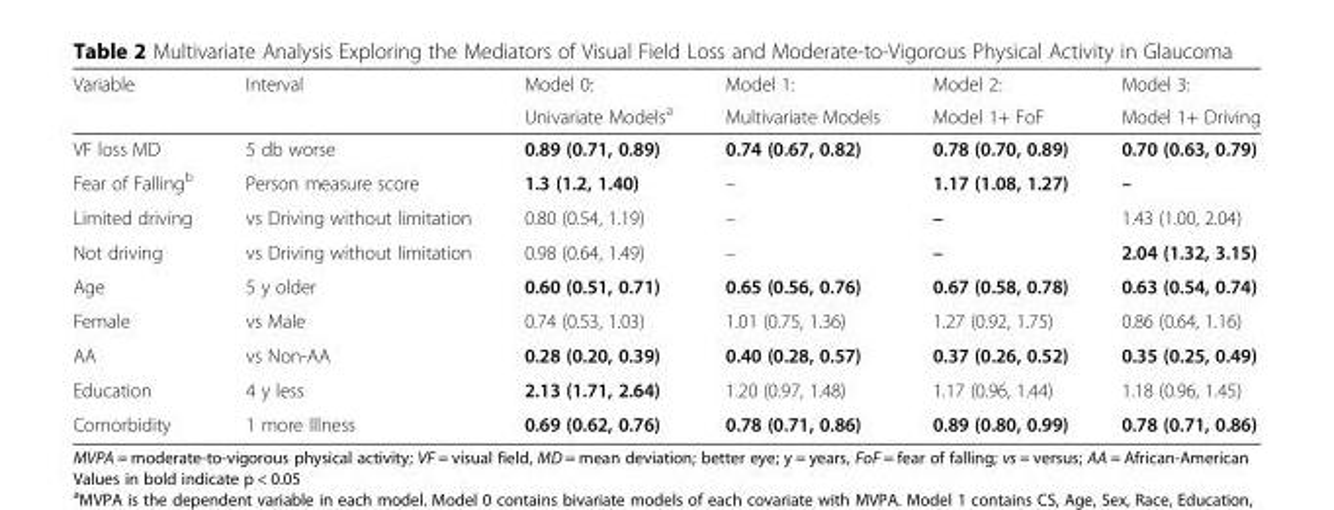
<table><thead><tr><td rowspan="2">Variable</td><td rowspan="2">Interval</td><td rowspan="2">Model 0: Univariate Models<sup>a</sup></td><td rowspan="2">Model 1: Multivariate Models</td><td rowspan="2">Model 2: Model 1+ FoF</td><td rowspan="2">Model 3: Model 1+ Driving</td></tr><tr></tr></thead><tbody><tr><td>VF loss MD</td><td>5 db worse</td><td>0.89 (0.71, 0.89)</td><td>0.74 (0.67, 0.82)</td><td>0.78 (0.70, 0.89)</td><td>0.70 (0.63, 0.79)</td></tr><tr><td>Fear of Falling<sup>b</sup></td><td>Person measure score</td><td>1.3 (1.2, 1.40)</td><td>–</td><td>1.17 (1.08, 1.27)</td><td>–</td></tr><tr><td>Limited driving</td><td>vs Driving without limitation</td><td>0.80 (0.54, 1.19)</td><td>–</td><td>–</td><td>1.43 (1.00, 2.04)</td></tr><tr><td>Not driving</td><td>vs Driving without limitation</td><td>0.98 (0.64, 1.49)</td><td>–</td><td>–</td><td>2.04 (1.32, 3.15)</td></tr><tr><td>Age</td><td>5 y older</td><td>0.60 (0.51, 0.71)</td><td>0.65 (0.56, 0.76)</td><td>0.67 (0.58, 0.78)</td><td>0.63 (0.54, 0.74)</td></tr><tr><td>Female</td><td>vs Male</td><td>0.74 (0.53, 1.03)</td><td>1.01 (0.75, 1.36)</td><td>1.27 (0.92, 1.75)</td><td>0.86 (0.64, 1.16)</td></tr><tr><td>AA</td><td>vs Non-AA</td><td>0.28 (0.20, 0.39)</td><td>0.40 (0.28, 0.57)</td><td>0.37 (0.26, 0.52)</td><td>0.35 (0.25, 0.49)</td></tr><tr><td>Education</td><td>4 y less</td><td>2.13 (1.71, 2.64)</td><td>1.20 (0.97, 1.48)</td><td>1.17 (0.96, 1.44)</td><td>1.18 (0.96, 1.45)</td></tr><tr><td>Comorbidity</td><td>1 more Illness</td><td>0.69 (0.62, 0.76)</td><td>0.78 (0.71, 0.86)</td><td>0.89 (0.80, 0.99)</td><td>0.78 (0.71, 0.86)</td></tr></tbody></table>